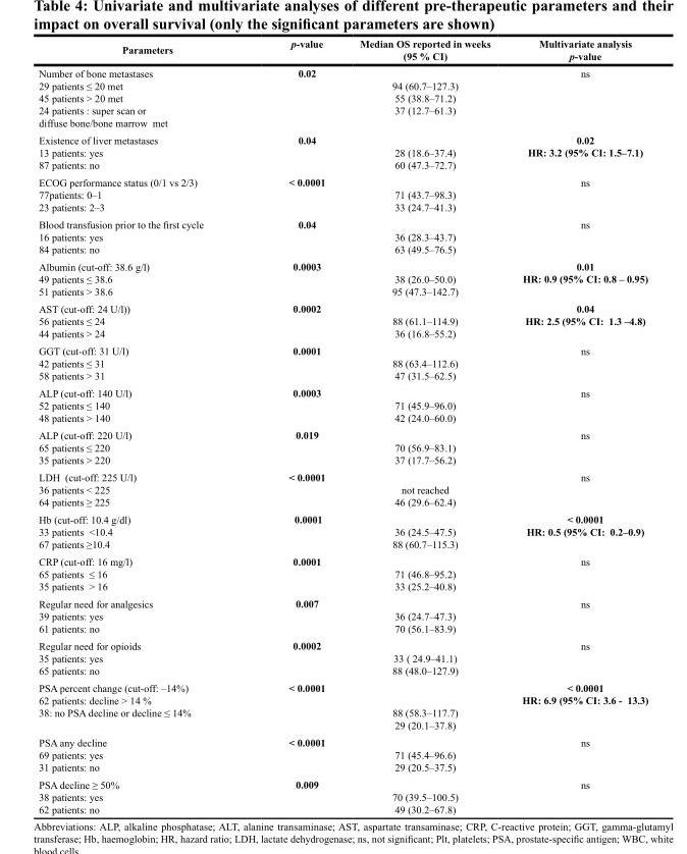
<table><thead><tr><td>Parameters</td><td>p-value</td><td>Median OS reported in weeks (95 % CI)</td><td>Multivariate analysis p-value</td></tr></thead><tbody><tr><td>Number of bone metastases 29 patients ≤ 20 met 45 patients &gt; 20 met 24 patients : super scan or diffuse bone/bone marrow met</td><td>0.02</td><td>94 (60.7–127.3) 55 (38.8–71.2) 37 (12.7–61.3)</td><td>ns</td></tr><tr><td>Existence of liver metastases 13 patients: yes 87 patients: no</td><td>0.04</td><td>28 (18.6–37.4) 60 (47.3–72.7)</td><td>0.02 HR: 3.2 (95% CI: 1.5–7.1)</td></tr><tr><td>ECOG performance status (0/1 vs 2/3) 77patients: 0–1 23 patients: 2–3</td><td>&lt; 0.0001</td><td>71 (43.7–98.3) 33 (24.7–41.3)</td><td>ns</td></tr><tr><td>Blood transfusion prior to the first cycle 16 patients: yes 84 patients: no</td><td>0.04</td><td>36 (28.3–43.7) 63 (49.5–76.5)</td><td>ns</td></tr><tr><td>Albumin (cut-off: 38.6 g/l) 49 patients ≤ 38.6 51 patients &gt; 38.6</td><td>0.0003</td><td>38 (26.0–50.0) 95 (47.3–142.7)</td><td>0.01 HR: 0.9 (95% CI: 0.8 – 0.95)</td></tr><tr><td>AST (cut-off: 24 U/l)) 56 patients ≤ 24 44 patients &gt; 24</td><td>0.0002</td><td>88 (61.1–114.9) 36 (16.8–55.2)</td><td>0.04 HR: 2.5 (95% CI: 1.3 –4.8)</td></tr><tr><td>GGT (cut-off: 31 U/l) 42 patients ≤ 31 58 patients &gt; 31</td><td>0.0001</td><td>88 (63.4–112.6) 47 (31.5–62.5)</td><td>ns</td></tr><tr><td>ALP (cut-off: 140 U/l) 52 patients ≤ 140 48 patients &gt; 140</td><td>0.0003</td><td>71 (45.9–96.0) 42 (24.0–60.0)</td><td>ns</td></tr><tr><td>ALP (cut-off: 220 U/l) 65 patients ≤ 220 35 patients &gt; 220</td><td>0.019</td><td>70 (56.9–83.1) 37 (17.7–56.2)</td><td>ns</td></tr><tr><td>LDH (cut-off: 225 U/l) 36 patients &lt; 225 64 patients ≥ 225</td><td>&lt; 0.0001</td><td>not reached 46 (29.6–62.4)</td><td>ns</td></tr><tr><td>Hb (cut-off: 10.4 g/dl) 33 patients &lt;10.4 67 patients ≥10.4</td><td>0.0001</td><td>36 (24.5–47.5) 88 (60.7–115.3)</td><td>&lt; 0.0001 HR: 0.5 (95% CI: 0.2–0.9)</td></tr><tr><td>CRP (cut-off: 16 mg/l) 65 patients ≤ 16 35 patients &gt; 16</td><td>0.0001</td><td>71 (46.8–95.2) 33 (25.2–40.8)</td><td>ns</td></tr><tr><td>Regular need for analgesics 39 patients: yes 61 patients: no</td><td>0.007</td><td>36 (24.7–47.3) 70 (56.1–83.9)</td><td>ns</td></tr><tr><td>Regular need for opioids 35 patients: yes 65 patients: no</td><td>0.0002</td><td>33 ( 24.9–41.1) 88 (48.0–127.9)</td><td>ns</td></tr><tr><td>PSA percent change (cut-off: –14%) 62 patients: decline &gt; 14 % 38: no PSA decline or decline ≤ 14%</td><td>&lt; 0.0001</td><td>88 (58.3–117.7) 29 (20.1–37.8)</td><td>&lt; 0.0001 HR: 6.9 (95% CI: 3.6 - 13.3)</td></tr><tr><td>PSA any decline 69 patients: yes 31 patients: no</td><td>&lt; 0.0001</td><td>71 (45.4–96.6) 29 (20.5–37.5)</td><td>ns</td></tr><tr><td>PSA decline ≥ 50% 38 patients: yes 62 patients: no</td><td>0.009</td><td>70 (39.5–100.5) 49 (30.2–67.8)</td><td>ns</td></tr></tbody></table>